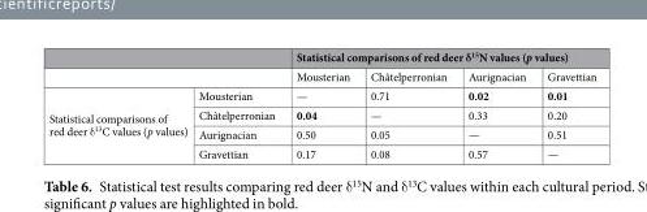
<table><thead><tr><td></td><td></td><td colspan="4">Statistical comparisons of red deer δ<sup>15</sup>N values (p values)</td></tr><tr><td colspan="2"></td><td>Mousterian</td><td>Châtelperronian</td><td>Aurignacian</td><td>Gravettian</td></tr></thead><tbody><tr><td rowspan="4">Statistical comparisons of red deer δ<sup>13</sup>C values (p values)</td><td>Mousterian</td><td>—</td><td>0.71</td><td>0.02</td><td>0.01</td></tr><tr><td>Châtelperronian</td><td>0.04</td><td>—</td><td>0.33</td><td>0.20</td></tr><tr><td>Aurignacian</td><td>0.50</td><td>0.05</td><td>—</td><td>0.51</td></tr><tr><td>Gravettian</td><td>0.17</td><td>0.08</td><td>0.57</td><td>—</td></tr></tbody></table>